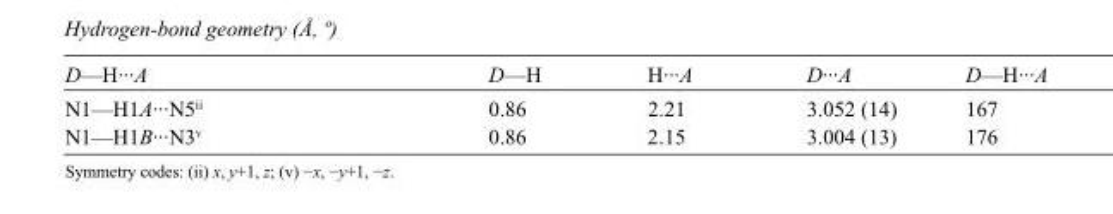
<table><tbody><tr><td>D—H···A</td><td>D—H</td><td>H···A</td><td>D···A</td><td>D—H···A</td></tr><tr><td>N1—H1A···N5<sup>ii</sup></td><td>0.86</td><td>2.21</td><td>3.052 (14)</td><td>167</td></tr><tr><td>N1—H1B···N3<sup>v</sup></td><td>0.86</td><td>2.15</td><td>3.004 (13)</td><td>176</td></tr></tbody></table>